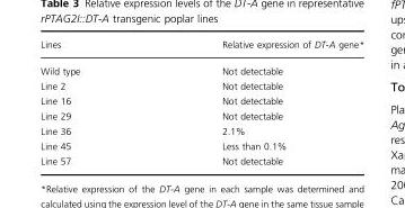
<table><thead><tr><td>Lines</td><td>Relative expression of DT-A gene*</td></tr></thead><tbody><tr><td>Wild type</td><td>Not detectable</td></tr><tr><td>Line 2</td><td>Not detectable</td></tr><tr><td>Line 16</td><td>Not detectable</td></tr><tr><td>Line 29</td><td>Not detectable</td></tr><tr><td>Line 36</td><td>2.1%</td></tr><tr><td>Line 45</td><td>Less than 0.1%</td></tr><tr><td>Line 57</td><td>Not detectable</td></tr></tbody></table>